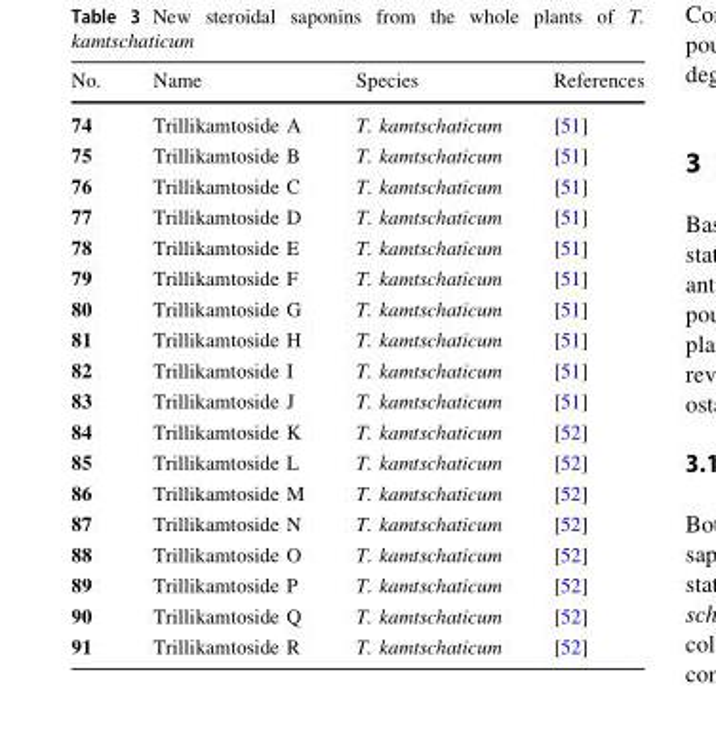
<table><thead><tr><td>No.</td><td>Name</td><td>Species</td><td>References</td></tr></thead><tbody><tr><td>74</td><td>Trillikamtoside A</td><td>T. kamtschaticum</td><td>[51]</td></tr><tr><td>75</td><td>Trillikamtoside B</td><td>T. kamtschaticum</td><td>[51]</td></tr><tr><td>76</td><td>Trillikamtoside C</td><td>T. kamtschaticum</td><td>[51]</td></tr><tr><td>77</td><td>Trillikamtoside D</td><td>T. kamtschaticum</td><td>[51]</td></tr><tr><td>78</td><td>Trillikamtoside E</td><td>T. kamtschaticum</td><td>[51]</td></tr><tr><td>79</td><td>Trillikamtoside F</td><td>T. kamtschaticum</td><td>[51]</td></tr><tr><td>80</td><td>Trillikamtoside G</td><td>T. kamtschaticum</td><td>[51]</td></tr><tr><td>81</td><td>Trillikamtoside H</td><td>T. kamtschaticum</td><td>[51]</td></tr><tr><td>82</td><td>Trillikamtoside I</td><td>T. kamtschaticum</td><td>[51]</td></tr><tr><td>83</td><td>Trillikamtoside J</td><td>T. kamtschaticum</td><td>[51]</td></tr><tr><td>84</td><td>Trillikamtoside K</td><td>T. kamtschaticum</td><td>[52]</td></tr><tr><td>85</td><td>Trillikamtoside L</td><td>T. kamtschaticum</td><td>[52]</td></tr><tr><td>86</td><td>Trillikamtoside M</td><td>T. kamtschaticum</td><td>[52]</td></tr><tr><td>87</td><td>Trillikamtoside N</td><td>T. kamtschaticum</td><td>[52]</td></tr><tr><td>88</td><td>Trillikamtoside O</td><td>T. kamtschaticum</td><td>[52]</td></tr><tr><td>89</td><td>Trillikamtoside P</td><td>T. kamtschaticum</td><td>[52]</td></tr><tr><td>90</td><td>Trillikamtoside Q</td><td>T. kamtschaticum</td><td>[52]</td></tr><tr><td>91</td><td>Trillikamtoside R</td><td>T. kamtschaticum</td><td>[52]</td></tr></tbody></table>